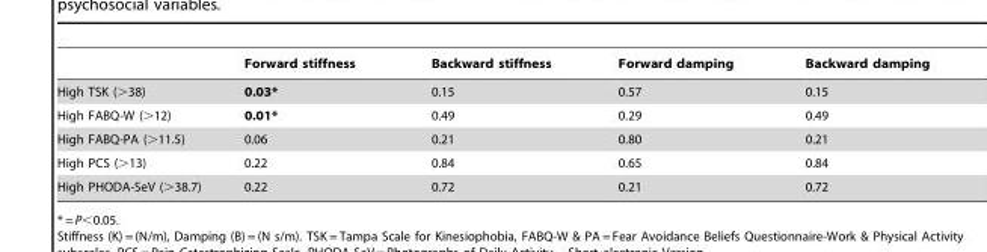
<table><thead><tr><td></td><td>Forward stiffness</td><td>Backward stiffness</td><td>Forward damping</td><td>Backward damping</td></tr></thead><tbody><tr><td>High TSK (&gt;38)</td><td>0.03*</td><td>0.15</td><td>0.57</td><td>0.15</td></tr><tr><td>High FABQ-W (&gt;12)</td><td>0.01*</td><td>0.49</td><td>0.29</td><td>0.49</td></tr><tr><td>High FABQ-PA (&gt;11.5)</td><td>0.06</td><td>0.21</td><td>0.80</td><td>0.21</td></tr><tr><td>High PCS (&gt;13)</td><td>0.22</td><td>0.84</td><td>0.65</td><td>0.84</td></tr><tr><td>High PHODA-SeV (&gt;38.7)</td><td>0.22</td><td>0.72</td><td>0.21</td><td>0.72</td></tr></tbody></table>